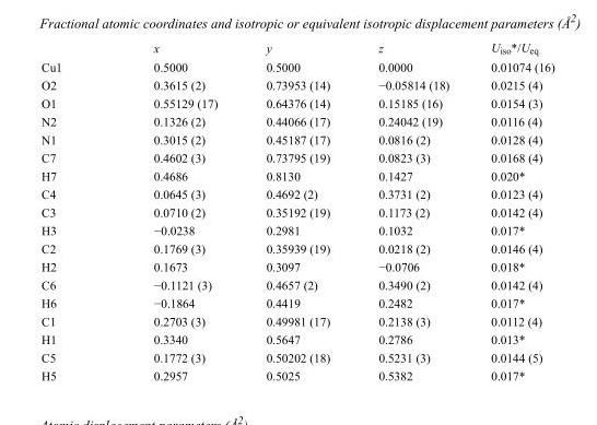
<table><thead><tr><td></td><td>x</td><td>y</td><td>z</td><td>U<sub>iso</sub>*/U<sub>eq</sub></td></tr></thead><tbody><tr><td>Cu1</td><td>0.5000</td><td>0.5000</td><td>0.0000</td><td>0.01074 (16)</td></tr><tr><td>O2</td><td>0.3615 (2)</td><td>0.73953 (14)</td><td>−0.05814 (18)</td><td>0.0215 (4)</td></tr><tr><td>O1</td><td>0.55129 (17)</td><td>0.64376 (14)</td><td>0.15185 (16)</td><td>0.0154 (3)</td></tr><tr><td>N2</td><td>0.1326 (2)</td><td>0.44066 (17)</td><td>0.24042 (19)</td><td>0.0116 (4)</td></tr><tr><td>N1</td><td>0.3015 (2)</td><td>0.45187 (17)</td><td>0.0816 (2)</td><td>0.0128 (4)</td></tr><tr><td>C7</td><td>0.4602 (3)</td><td>0.73795 (19)</td><td>0.0823 (3)</td><td>0.0168 (4)</td></tr><tr><td>H7</td><td>0.4686</td><td>0.8130</td><td>0.1427</td><td>0.020*</td></tr><tr><td>C4</td><td>0.0645 (3)</td><td>0.4692 (2)</td><td>0.3731 (2)</td><td>0.0123 (4)</td></tr><tr><td>C3</td><td>0.0710 (2)</td><td>0.35192 (19)</td><td>0.1173 (2)</td><td>0.0142 (4)</td></tr><tr><td>H3</td><td>−0.0238</td><td>0.2981</td><td>0.1032</td><td>0.017*</td></tr><tr><td>C2</td><td>0.1769 (3)</td><td>0.35939 (19)</td><td>0.0218 (2)</td><td>0.0146 (4)</td></tr><tr><td>H2</td><td>0.1673</td><td>0.3097</td><td>−0.0706</td><td>0.018*</td></tr><tr><td>C6</td><td>−0.1121 (3)</td><td>0.4657 (2)</td><td>0.3490 (2)</td><td>0.0142 (4)</td></tr><tr><td>H6</td><td>−0.1864</td><td>0.4419</td><td>0.2482</td><td>0.017*</td></tr><tr><td>C1</td><td>0.2703 (3)</td><td>0.49981 (17)</td><td>0.2138 (3)</td><td>0.0112 (4)</td></tr><tr><td>H1</td><td>0.3340</td><td>0.5647</td><td>0.2786</td><td>0.013*</td></tr><tr><td>C5</td><td>0.1772 (3)</td><td>0.50202 (18)</td><td>0.5231 (3)</td><td>0.0144 (5)</td></tr><tr><td>H5</td><td>0.2957</td><td>0.5025</td><td>0.5382</td><td>0.017*</td></tr></tbody></table>